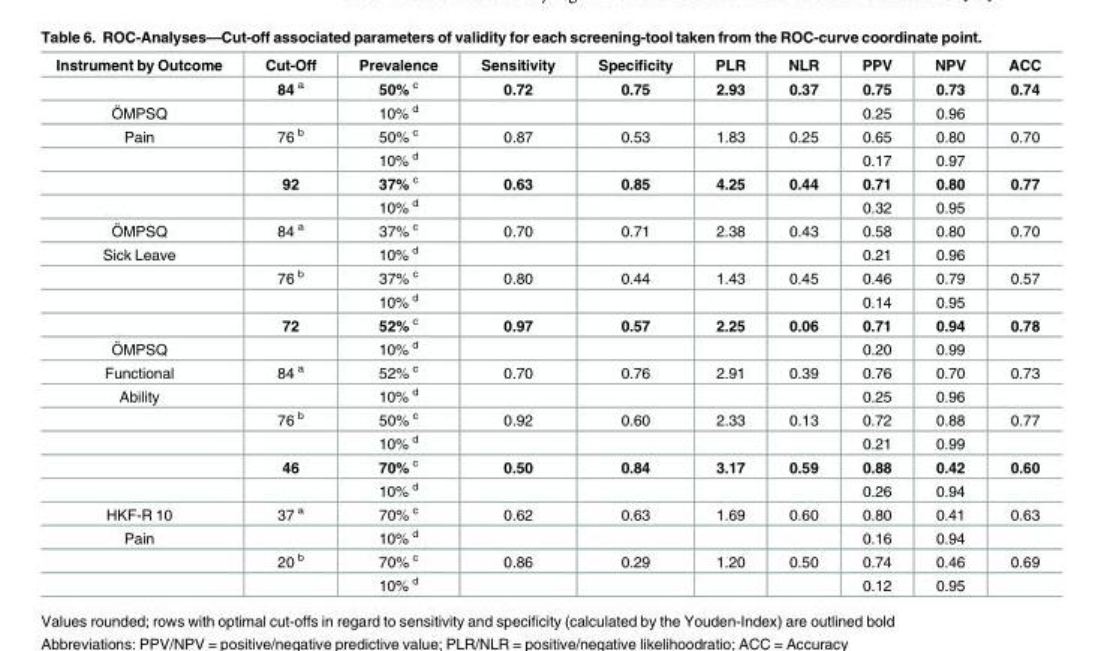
<table><thead><tr><td>Instrument by Outcome</td><td>Cut-Off</td><td>Prevalence</td><td>Sensitivity</td><td>Specificity</td><td>PLR</td><td>NLR</td><td>PPV</td><td>NPV</td><td>ACC</td></tr></thead><tbody><tr><td></td><td>84 <sup>a</sup></td><td>50% <sup>c</sup></td><td>0.72</td><td>0.75</td><td>2.93</td><td>0.37</td><td>0.75</td><td>0.73</td><td>0.74</td></tr><tr><td>ÖMPSQ</td><td></td><td>10% <sup>d</sup></td><td></td><td></td><td></td><td></td><td>0.25</td><td>0.96</td><td></td></tr><tr><td rowspan="4">Pain</td><td>76 <sup>b</sup></td><td>50% <sup>c</sup></td><td>0.87</td><td>0.53</td><td>1.83</td><td>0.25</td><td>0.65</td><td>0.80</td><td>0.70</td></tr><tr><td></td><td>10% <sup>d</sup></td><td></td><td></td><td></td><td></td><td>0.17</td><td>0.97</td><td></td></tr><tr><td>92</td><td>37% <sup>c</sup></td><td>0.63</td><td>0.85</td><td>4.25</td><td>0.44</td><td>0.71</td><td>0.80</td><td>0.77</td></tr><tr><td></td><td>10% <sup>d</sup></td><td></td><td></td><td></td><td></td><td>0.32</td><td>0.95</td><td></td></tr><tr><td>ÖMPSQ</td><td>84 <sup>a</sup></td><td>37% <sup>c</sup></td><td>0.70</td><td>0.71</td><td>2.38</td><td>0.43</td><td>0.58</td><td>0.80</td><td>0.70</td></tr><tr><td rowspan="4">Sick Leave</td><td></td><td>10% <sup>d</sup></td><td></td><td></td><td></td><td></td><td>0.21</td><td>0.96</td><td></td></tr><tr><td>76 <sup>b</sup></td><td>37% <sup>c</sup></td><td>0.80</td><td>0.44</td><td>1.43</td><td>0.45</td><td>0.46</td><td>0.79</td><td>0.57</td></tr><tr><td></td><td>10% <sup>d</sup></td><td></td><td></td><td></td><td></td><td>0.14</td><td>0.95</td><td></td></tr><tr><td>72</td><td>52% <sup>c</sup></td><td>0.97</td><td>0.57</td><td>2.25</td><td>0.06</td><td>0.71</td><td>0.94</td><td>0.78</td></tr><tr><td>ÖMPSQ</td><td></td><td>10% <sup>d</sup></td><td></td><td></td><td></td><td></td><td>0.20</td><td>0.99</td><td></td></tr><tr><td>Functional</td><td>84 <sup>a</sup></td><td>52% <sup>c</sup></td><td>0.70</td><td>0.76</td><td>2.91</td><td>0.39</td><td>0.76</td><td>0.70</td><td>0.73</td></tr><tr><td rowspan="5">Ability</td><td></td><td>10% <sup>d</sup></td><td></td><td></td><td></td><td></td><td>0.25</td><td>0.96</td><td></td></tr><tr><td>76 <sup>b</sup></td><td>50% <sup>c</sup></td><td>0.92</td><td>0.60</td><td>2.33</td><td>0.13</td><td>0.72</td><td>0.88</td><td>0.77</td></tr><tr><td></td><td>10% <sup>d</sup></td><td></td><td></td><td></td><td></td><td>0.21</td><td>0.99</td><td></td></tr><tr><td>46</td><td>70% <sup>c</sup></td><td>0.50</td><td>0.84</td><td>3.17</td><td>0.59</td><td>0.88</td><td>0.42</td><td>0.60</td></tr><tr><td></td><td>10% <sup>d</sup></td><td></td><td></td><td></td><td></td><td>0.26</td><td>0.94</td><td></td></tr><tr><td>HKF-R 10</td><td>37 <sup>a</sup></td><td>70% <sup>c</sup></td><td>0.62</td><td>0.63</td><td>1.69</td><td>0.60</td><td>0.80</td><td>0.41</td><td>0.63</td></tr><tr><td rowspan="3">Pain</td><td></td><td>10% <sup>d</sup></td><td></td><td></td><td></td><td></td><td>0.16</td><td>0.94</td><td></td></tr><tr><td>20 <sup>b</sup></td><td>70% <sup>c</sup></td><td>0.86</td><td>0.29</td><td>1.20</td><td>0.50</td><td>0.74</td><td>0.46</td><td>0.69</td></tr><tr><td></td><td>10% <sup>d</sup></td><td></td><td></td><td></td><td></td><td>0.12</td><td>0.95</td><td></td></tr></tbody></table>